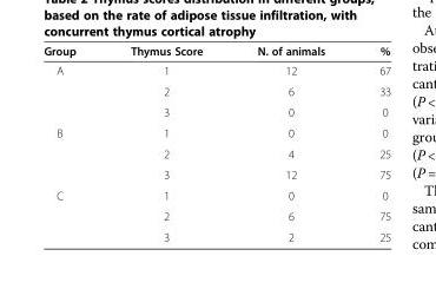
<table><thead><tr><td>Group</td><td>Thymus Score</td><td>N. of animals</td><td>%</td></tr></thead><tbody><tr><td rowspan="3">A</td><td>1</td><td>12</td><td>67</td></tr><tr><td>2</td><td>6</td><td>33</td></tr><tr><td>3</td><td>0</td><td>0</td></tr><tr><td rowspan="3">B</td><td>1</td><td>0</td><td>0</td></tr><tr><td>2</td><td>4</td><td>25</td></tr><tr><td>3</td><td>12</td><td>75</td></tr><tr><td rowspan="3">C</td><td>1</td><td>0</td><td>0</td></tr><tr><td>2</td><td>6</td><td>75</td></tr><tr><td>3</td><td>2</td><td>25</td></tr></tbody></table>